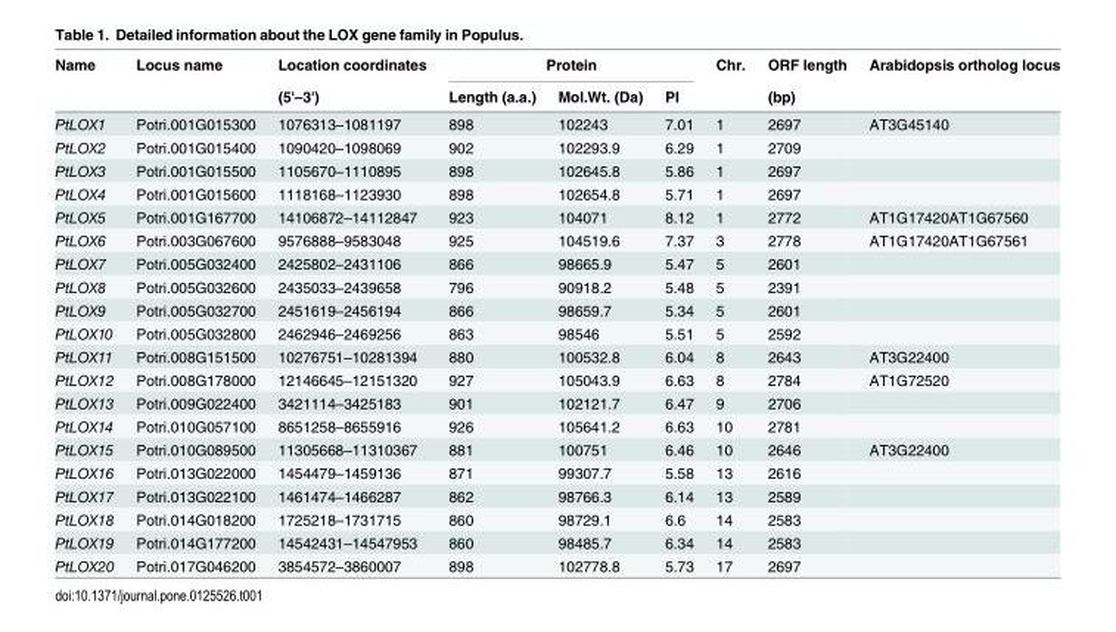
<table><thead><tr><td rowspan="2">Name</td><td rowspan="2">Locus name</td><td rowspan="2">Location coordinates (5&#x27;–3&#x27;)</td><td colspan="3">Protein</td><td rowspan="2">Chr.</td><td rowspan="2">ORF length (bp)</td><td rowspan="2">Arabidopsis ortholog locus</td></tr><tr><td>Length (a.a.)</td><td>Mol.Wt. (Da)</td><td>PI</td></tr></thead><tbody><tr><td>PtLOX1</td><td>Potri.001G015300</td><td>1076313–1081197</td><td>898</td><td>102243</td><td>7.01</td><td>1</td><td>2697</td><td>AT3G45140</td></tr><tr><td>PtLOX2</td><td>Potri.001G015400</td><td>1090420–1098069</td><td>902</td><td>102293.9</td><td>6.29</td><td>1</td><td>2709</td><td></td></tr><tr><td>PtLOX3</td><td>Potri.001G015500</td><td>1105670–1110895</td><td>898</td><td>102645.8</td><td>5.86</td><td>1</td><td>2697</td><td></td></tr><tr><td>PtLOX4</td><td>Potri.001G015600</td><td>1118168–1123930</td><td>898</td><td>102654.8</td><td>5.71</td><td>1</td><td>2697</td><td></td></tr><tr><td>PtLOX5</td><td>Potri.001G167700</td><td>14106872–14112847</td><td>923</td><td>104071</td><td>8.12</td><td>1</td><td>2772</td><td>AT1G17420AT1G67560</td></tr><tr><td>PtLOX6</td><td>Potri.003G067600</td><td>9576888–9583048</td><td>925</td><td>104519.6</td><td>7.37</td><td>3</td><td>2778</td><td>AT1G17420AT1G67561</td></tr><tr><td>PtLOX7</td><td>Potri.005G032400</td><td>2425802–2431106</td><td>866</td><td>98665.9</td><td>5.47</td><td>5</td><td>2601</td><td></td></tr><tr><td>PtLOX8</td><td>Potri.005G032600</td><td>2435033–2439658</td><td>796</td><td>90918.2</td><td>5.48</td><td>5</td><td>2391</td><td></td></tr><tr><td>PtLOX9</td><td>Potri.005G032700</td><td>2451619–2456194</td><td>866</td><td>98659.7</td><td>5.34</td><td>5</td><td>2601</td><td></td></tr><tr><td>PtLOX10</td><td>Potri.005G032800</td><td>2462946–2469256</td><td>863</td><td>98546</td><td>5.51</td><td>5</td><td>2592</td><td></td></tr><tr><td>PtLOX11</td><td>Potri.008G151500</td><td>10276751–10281394</td><td>880</td><td>100532.8</td><td>6.04</td><td>8</td><td>2643</td><td>AT3G22400</td></tr><tr><td>PtLOX12</td><td>Potri.008G178000</td><td>12146645–12151320</td><td>927</td><td>105043.9</td><td>6.63</td><td>8</td><td>2784</td><td>AT1G72520</td></tr><tr><td>PtLOX13</td><td>Potri.009G022400</td><td>3421114–3425183</td><td>901</td><td>102121.7</td><td>6.47</td><td>9</td><td>2706</td><td></td></tr><tr><td>PtLOX14</td><td>Potri.010G057100</td><td>8651258–8655916</td><td>926</td><td>105641.2</td><td>6.63</td><td>10</td><td>2781</td><td></td></tr><tr><td>PtLOX15</td><td>Potri.010G089500</td><td>11305668–11310367</td><td>881</td><td>100751</td><td>6.46</td><td>10</td><td>2646</td><td>AT3G22400</td></tr><tr><td>PtLOX16</td><td>Potri.013G022000</td><td>1454479–1459136</td><td>871</td><td>99307.7</td><td>5.58</td><td>13</td><td>2616</td><td></td></tr><tr><td>PtLOX17</td><td>Potri.013G022100</td><td>1461474–1466287</td><td>862</td><td>98766.3</td><td>6.14</td><td>13</td><td>2589</td><td></td></tr><tr><td>PtLOX18</td><td>Potri.014G018200</td><td>1725218–1731715</td><td>860</td><td>98729.1</td><td>6.6</td><td>14</td><td>2583</td><td></td></tr><tr><td>PtLOX19</td><td>Potri.014G177200</td><td>14542431–14547953</td><td>860</td><td>98485.7</td><td>6.34</td><td>14</td><td>2583</td><td></td></tr><tr><td>PtLOX20</td><td>Potri.017G046200</td><td>3854572–3860007</td><td>898</td><td>102778.8</td><td>5.73</td><td>17</td><td>2697</td><td></td></tr></tbody></table>